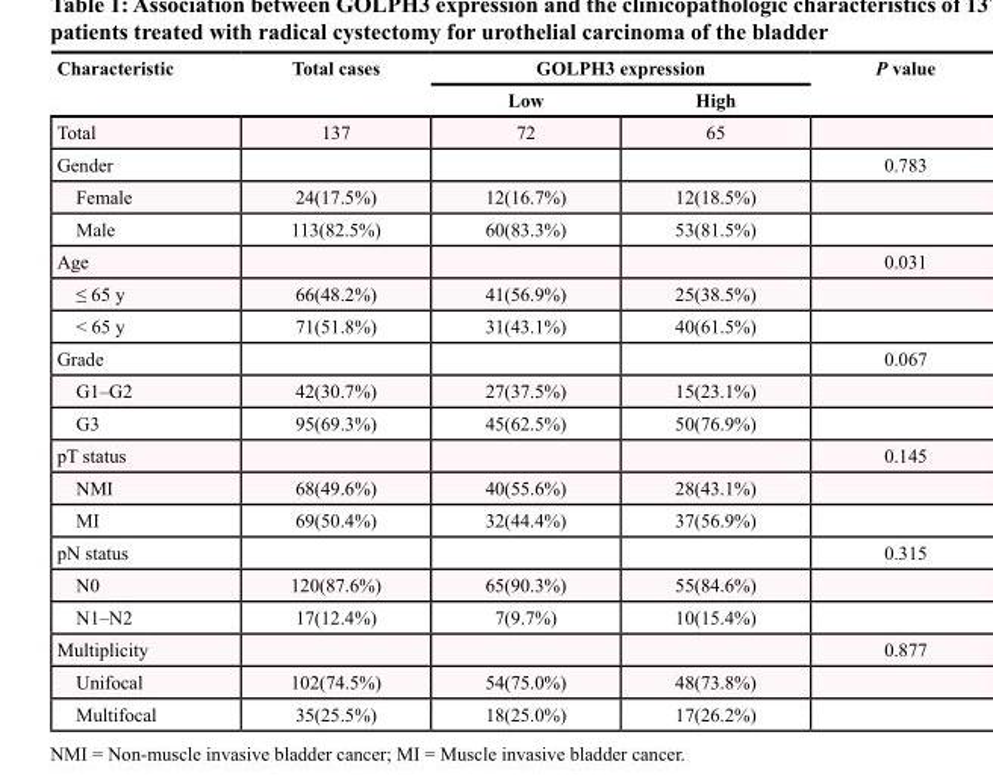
<table><thead><tr><td rowspan="2">Characteristic</td><td rowspan="2">Total cases</td><td colspan="2">GOLPH3 expression</td><td rowspan="2">P value</td></tr><tr><td>Low</td><td>High</td></tr></thead><tbody><tr><td>Total</td><td>137</td><td>72</td><td>65</td><td></td></tr><tr><td>Gender</td><td></td><td></td><td></td><td>0.783</td></tr><tr><td>Female</td><td>24(17.5%)</td><td>12(16.7%)</td><td>12(18.5%)</td><td></td></tr><tr><td>Male</td><td>113(82.5%)</td><td>60(83.3%)</td><td>53(81.5%)</td><td></td></tr><tr><td>Age</td><td></td><td></td><td></td><td>0.031</td></tr><tr><td>≤ 65 y</td><td>66(48.2%)</td><td>41(56.9%)</td><td>25(38.5%)</td><td></td></tr><tr><td>&lt; 65 y</td><td>71(51.8%)</td><td>31(43.1%)</td><td>40(61.5%)</td><td></td></tr><tr><td>Grade</td><td></td><td></td><td></td><td>0.067</td></tr><tr><td>G1–G2</td><td>42(30.7%)</td><td>27(37.5%)</td><td>15(23.1%)</td><td></td></tr><tr><td>G3</td><td>95(69.3%)</td><td>45(62.5%)</td><td>50(76.9%)</td><td></td></tr><tr><td>pT status</td><td></td><td></td><td></td><td>0.145</td></tr><tr><td>NMI</td><td>68(49.6%)</td><td>40(55.6%)</td><td>28(43.1%)</td><td></td></tr><tr><td>MI</td><td>69(50.4%)</td><td>32(44.4%)</td><td>37(56.9%)</td><td></td></tr><tr><td>pN status</td><td></td><td></td><td></td><td>0.315</td></tr><tr><td>N0</td><td>120(87.6%)</td><td>65(90.3%)</td><td>55(84.6%)</td><td></td></tr><tr><td>N1–N2</td><td>17(12.4%)</td><td>7(9.7%)</td><td>10(15.4%)</td><td></td></tr><tr><td>Multiplicity</td><td></td><td></td><td></td><td>0.877</td></tr><tr><td>Unifocal</td><td>102(74.5%)</td><td>54(75.0%)</td><td>48(73.8%)</td><td></td></tr><tr><td>Multifocal</td><td>35(25.5%)</td><td>18(25.0%)</td><td>17(26.2%)</td><td></td></tr></tbody></table>